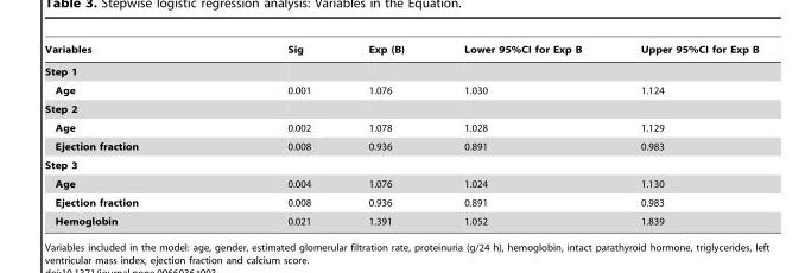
<table><thead><tr><td>Variables</td><td>Sig</td><td>Exp (B)</td><td>Lower 95%CI for Exp B</td><td>Upper 95%CI for Exp B</td></tr></thead><tbody><tr><td colspan="5">Step 1</td></tr><tr><td>Age</td><td>0.001</td><td>1.076</td><td>1.030</td><td>1.124</td></tr><tr><td colspan="5">Step 2</td></tr><tr><td>Age</td><td>0.002</td><td>1.078</td><td>1.028</td><td>1.129</td></tr><tr><td>Ejection fraction</td><td>0.008</td><td>0.936</td><td>0.891</td><td>0.983</td></tr><tr><td colspan="5">Step 3</td></tr><tr><td>Age</td><td>0.004</td><td>1.076</td><td>1.024</td><td>1.130</td></tr><tr><td>Ejection fraction</td><td>0.008</td><td>0.936</td><td>0.891</td><td>0.983</td></tr><tr><td>Hemoglobin</td><td>0.021</td><td>1.391</td><td>1.052</td><td>1.839</td></tr></tbody></table>